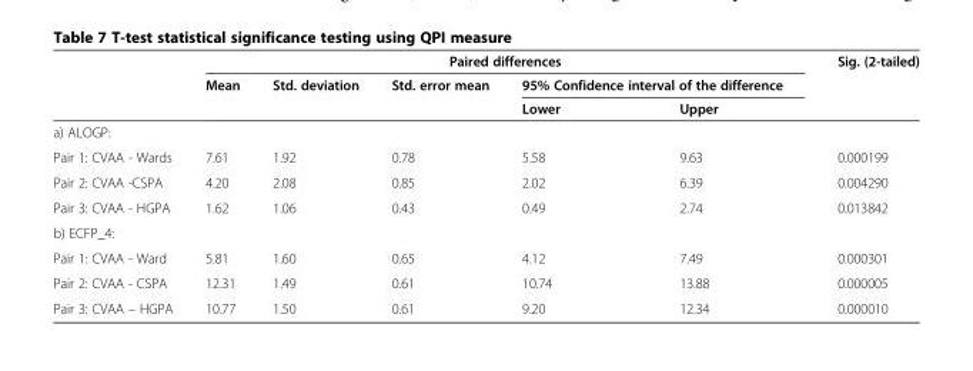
<table><thead><tr><td rowspan="3"></td><td colspan="5">Paired differences</td><td rowspan="3">Sig. (2-tailed)</td></tr><tr><td rowspan="2">Mean</td><td rowspan="2">Std. deviation</td><td rowspan="2">Std. error mean</td><td colspan="2">95% Confidence interval of the difference</td></tr><tr><td>Lower</td><td>Upper</td></tr></thead><tbody><tr><td colspan="7">a) ALOGP:</td></tr><tr><td>Pair 1: CVAA - Wards</td><td>7.61</td><td>1.92</td><td>0.78</td><td>5.58</td><td>9.63</td><td>0.000199</td></tr><tr><td>Pair 2: CVAA -CSPA</td><td>4.20</td><td>2.08</td><td>0.85</td><td>2.02</td><td>6.39</td><td>0.004290</td></tr><tr><td>Pair 3: CVAA - HGPA</td><td>1.62</td><td>1.06</td><td>0.43</td><td>0.49</td><td>2.74</td><td>0.013842</td></tr><tr><td colspan="7">b) ECFP_4:</td></tr><tr><td>Pair 1: CVAA - Ward</td><td>5.81</td><td>1.60</td><td>0.65</td><td>4.12</td><td>7.49</td><td>0.000301</td></tr><tr><td>Pair 2: CVAA - CSPA</td><td>12.31</td><td>1.49</td><td>0.61</td><td>10.74</td><td>13.88</td><td>0.000005</td></tr><tr><td>Pair 3: CVAA – HGPA</td><td>10.77</td><td>1.50</td><td>0.61</td><td>9.20</td><td>12.34</td><td>0.000010</td></tr></tbody></table>